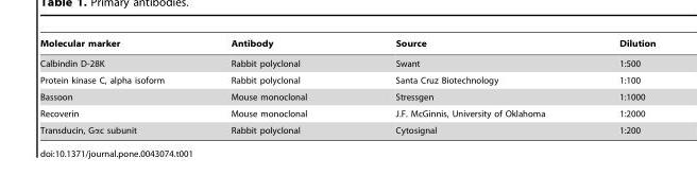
<table><thead><tr><td>Molecular marker</td><td>Antibody</td><td>Source</td><td>Dilution</td></tr></thead><tbody><tr><td>Calbindin D-28K</td><td>Rabbit polyclonal</td><td>Swant</td><td>1:500</td></tr><tr><td>Protein kinase C, alpha isoform</td><td>Rabbit polyclonal</td><td>Santa Cruz Biotechnology</td><td>1:100</td></tr><tr><td>Bassoon</td><td>Mouse monoclonal</td><td>Stressgen</td><td>1:1000</td></tr><tr><td>Recoverin</td><td>Mouse monoclonal</td><td>J.F. McGinnis, University of Oklahoma</td><td>1:2000</td></tr><tr><td>Transducin, Gαc subunit</td><td>Rabbit polyclonal</td><td>Cytosignal</td><td>1:200</td></tr></tbody></table>